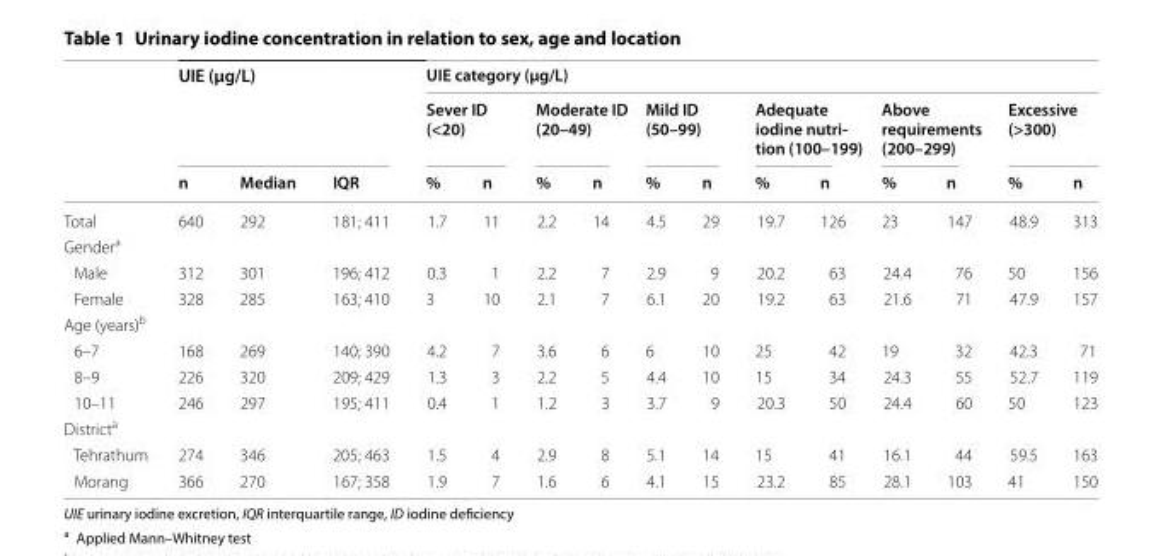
<table><thead><tr><td rowspan="3"></td><td rowspan="2" colspan="3">UIE (µg/L)</td><td colspan="12">UIE category (µg/L)</td></tr><tr><td colspan="2">Sever ID (&lt;20)</td><td colspan="2">Moderate ID (20–49)</td><td colspan="2">Mild ID (50–99)</td><td colspan="2">Adequate iodine nutri- tion (100–199)</td><td colspan="2">Above requirements (200–299)</td><td colspan="2">Excessive (&gt;300)</td></tr><tr><td>n</td><td>Median</td><td>IQR</td><td>%</td><td>n</td><td>%</td><td>n</td><td>%</td><td>n</td><td>%</td><td>n</td><td>%</td><td>n</td><td>%</td><td>n</td></tr></thead><tbody><tr><td>Total</td><td>640</td><td>292</td><td>181; 411</td><td>1.7</td><td>11</td><td>2.2</td><td>14</td><td>4.5</td><td>29</td><td>19.7</td><td>126</td><td>23</td><td>147</td><td>48.9</td><td>313</td></tr><tr><td colspan="16">Gender<sup>a</sup></td></tr><tr><td>Male</td><td>312</td><td>301</td><td>196; 412</td><td>0.3</td><td>1</td><td>2.2</td><td>7</td><td>2.9</td><td>9</td><td>20.2</td><td>63</td><td>24.4</td><td>76</td><td>50</td><td>156</td></tr><tr><td>Female</td><td>328</td><td>285</td><td>163; 410</td><td>3</td><td>10</td><td>2.1</td><td>7</td><td>6.1</td><td>20</td><td>19.2</td><td>63</td><td>21.6</td><td>71</td><td>47.9</td><td>157</td></tr><tr><td colspan="16">Age (years)<sup>b</sup></td></tr><tr><td>6–7</td><td>168</td><td>269</td><td>140; 390</td><td>4.2</td><td>7</td><td>3.6</td><td>6</td><td>6</td><td>10</td><td>25</td><td>42</td><td>19</td><td>32</td><td>42.3</td><td>71</td></tr><tr><td>8–9</td><td>226</td><td>320</td><td>209; 429</td><td>1.3</td><td>3</td><td>2.2</td><td>5</td><td>4.4</td><td>10</td><td>15</td><td>34</td><td>24.3</td><td>55</td><td>52.7</td><td>119</td></tr><tr><td>10–11</td><td>246</td><td>297</td><td>195; 411</td><td>0.4</td><td>1</td><td>1.2</td><td>3</td><td>3.7</td><td>9</td><td>20.3</td><td>50</td><td>24.4</td><td>60</td><td>50</td><td>123</td></tr><tr><td colspan="16">District<sup>a</sup></td></tr><tr><td>Tehrathum</td><td>274</td><td>346</td><td>205; 463</td><td>1.5</td><td>4</td><td>2.9</td><td>8</td><td>5.1</td><td>14</td><td>15</td><td>41</td><td>16.1</td><td>44</td><td>59.5</td><td>163</td></tr><tr><td>Morang</td><td>366</td><td>270</td><td>167; 358</td><td>1.9</td><td>7</td><td>1.6</td><td>6</td><td>4.1</td><td>15</td><td>23.2</td><td>85</td><td>28.1</td><td>103</td><td>41</td><td>150</td></tr></tbody></table>